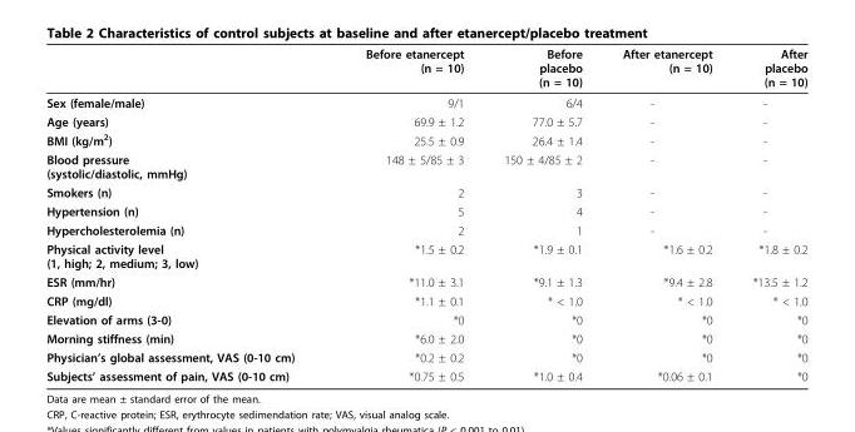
<table><thead><tr><td></td><td>Before etanercept (n = 10)</td><td>Before placebo (n = 10)</td><td>After etanercept (n = 10)</td><td>After placebo (n = 10)</td></tr></thead><tbody><tr><td>Sex (female/male)</td><td>9/1</td><td>6/4</td><td>-</td><td>-</td></tr><tr><td>Age (years)</td><td>69.9 ± 1.2</td><td>77.0 ± 5.7</td><td>-</td><td>-</td></tr><tr><td>BMI (kg/m<sup>2</sup>)</td><td>25.5 ± 0.9</td><td>26.4 ± 1.4</td><td>-</td><td>-</td></tr><tr><td>Blood pressure (systolic/diastolic, mmHg)</td><td>148 ± 5/85 ± 3</td><td>150 ± 4/85 ± 2</td><td>-</td><td>-</td></tr><tr><td>Smokers (n)</td><td>2</td><td>3</td><td>-</td><td>-</td></tr><tr><td>Hypertension (n)</td><td>5</td><td>4</td><td>-</td><td>-</td></tr><tr><td>Hypercholesterolemia (n)</td><td>2</td><td>1</td><td>-</td><td>-</td></tr><tr><td>Physical activity level (1, high; 2, medium; 3, low)</td><td>*1.5 ± 0.2</td><td>*1.9 ± 0.1</td><td>*1.6 ± 0.2</td><td>*1.8 ± 0.2</td></tr><tr><td>ESR (mm/hr)</td><td>*11.0 ± 3.1</td><td>*9.1 ± 1.3</td><td>*9.4 ± 2.8</td><td>*13.5 ± 1.2</td></tr><tr><td>CRP (mg/dl)</td><td>*1.1 ± 0.1</td><td>* &lt; 1.0</td><td>* &lt; 1.0</td><td>* &lt; 1.0</td></tr><tr><td>Elevation of arms (3-0)</td><td>*0</td><td>*0</td><td>*0</td><td>*0</td></tr><tr><td>Morning stiffness (min)</td><td>*6.0 ± 2.0</td><td>*0</td><td>*0</td><td>*0</td></tr><tr><td>Physician’s global assessment, VAS (0-10 cm)</td><td>*0.2 ± 0.2</td><td>*0</td><td>*0</td><td>*0</td></tr><tr><td>Subjects’ assessment of pain, VAS (0-10 cm)</td><td>*0.75 ± 0.5</td><td>*1.0 ± 0.4</td><td>*0.06 ± 0.1</td><td>*0</td></tr></tbody></table>